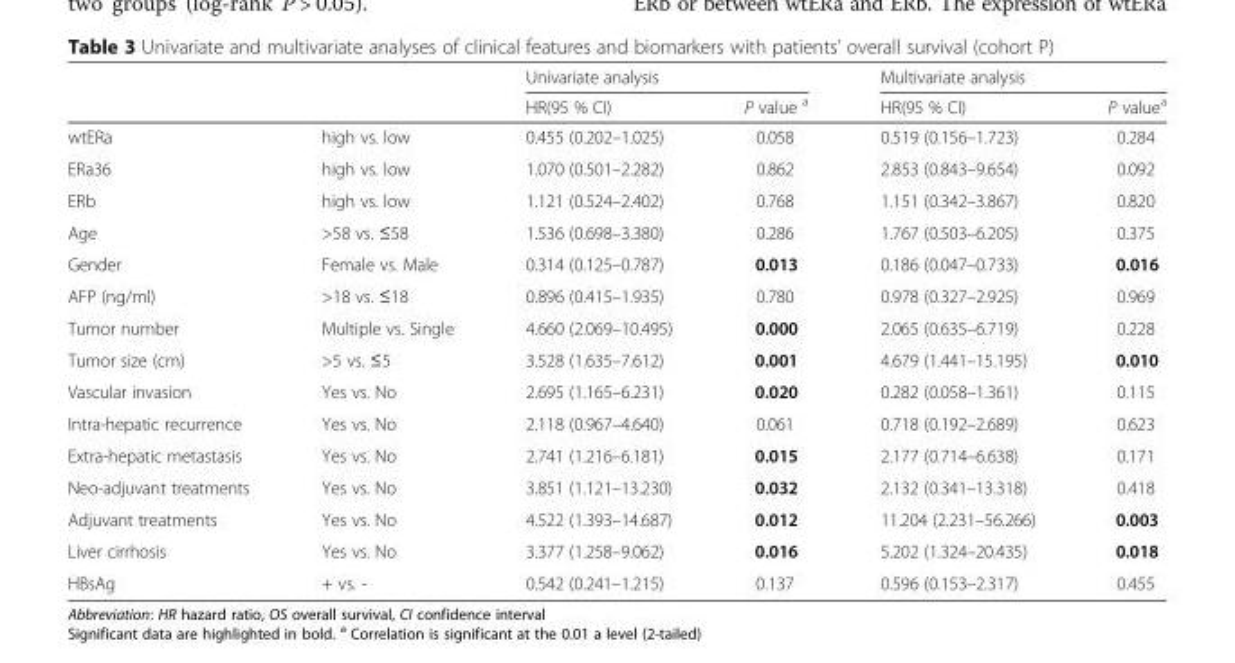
<table><thead><tr><td rowspan="2"></td><td rowspan="2"></td><td colspan="2">Univariate analysis</td><td colspan="2">Multivariate analysis</td></tr><tr><td>HR(95 % CI)</td><td>P value <sup>a</sup></td><td>HR(95 % CI)</td><td>P value<sup>a</sup></td></tr></thead><tbody><tr><td>wtERa</td><td>high vs. low</td><td>0.455 (0.202–1.025)</td><td>0.058</td><td>0.519 (0.156–1.723)</td><td>0.284</td></tr><tr><td>ERa36</td><td>high vs. low</td><td>1.070 (0.501–2.282)</td><td>0.862</td><td>2.853 (0.843–9.654)</td><td>0.092</td></tr><tr><td>ERb</td><td>high vs. low</td><td>1.121 (0.524–2.402)</td><td>0.768</td><td>1.151 (0.342–3.867)</td><td>0.820</td></tr><tr><td>Age</td><td>&gt;58 vs. ≤58</td><td>1.536 (0.698–3.380)</td><td>0.286</td><td>1.767 (0.503–6.205)</td><td>0.375</td></tr><tr><td>Gender</td><td>Female vs. Male</td><td>0.314 (0.125–0.787)</td><td>0.013</td><td>0.186 (0.047–0.733)</td><td>0.016</td></tr><tr><td>AFP (ng/ml)</td><td>&gt;18 vs. ≤18</td><td>0.896 (0.415–1.935)</td><td>0.780</td><td>0.978 (0.327–2.925)</td><td>0.969</td></tr><tr><td>Tumor number</td><td>Multiple vs. Single</td><td>4.660 (2.069–10.495)</td><td>0.000</td><td>2.065 (0.635–6.719)</td><td>0.228</td></tr><tr><td>Tumor size (cm)</td><td>&gt;5 vs. ≤5</td><td>3.528 (1.635–7.612)</td><td>0.001</td><td>4.679 (1.441–15.195)</td><td>0.010</td></tr><tr><td>Vascular invasion</td><td>Yes vs. No</td><td>2.695 (1.165–6.231)</td><td>0.020</td><td>0.282 (0.058–1.361)</td><td>0.115</td></tr><tr><td>Intra-hepatic recurrence</td><td>Yes vs. No</td><td>2.118 (0.967–4.640)</td><td>0.061</td><td>0.718 (0.192–2.689)</td><td>0.623</td></tr><tr><td>Extra-hepatic metastasis</td><td>Yes vs. No</td><td>2.741 (1.216–6.181)</td><td>0.015</td><td>2.177 (0.714–6.638)</td><td>0.171</td></tr><tr><td>Neo-adjuvant treatments</td><td>Yes vs. No</td><td>3.851 (1.121–13.230)</td><td>0.032</td><td>2.132 (0.341–13.318)</td><td>0.418</td></tr><tr><td>Adjuvant treatments</td><td>Yes vs. No</td><td>4.522 (1.393–14.687)</td><td>0.012</td><td>11.204 (2.231–56.266)</td><td>0.003</td></tr><tr><td>Liver cirrhosis</td><td>Yes vs. No</td><td>3.377 (1.258–9.062)</td><td>0.016</td><td>5.202 (1.324–20.435)</td><td>0.018</td></tr><tr><td>HBsAg</td><td>+ vs. -</td><td>0.542 (0.241–1.215)</td><td>0.137</td><td>0.596 (0.153–2.317)</td><td>0.455</td></tr></tbody></table>